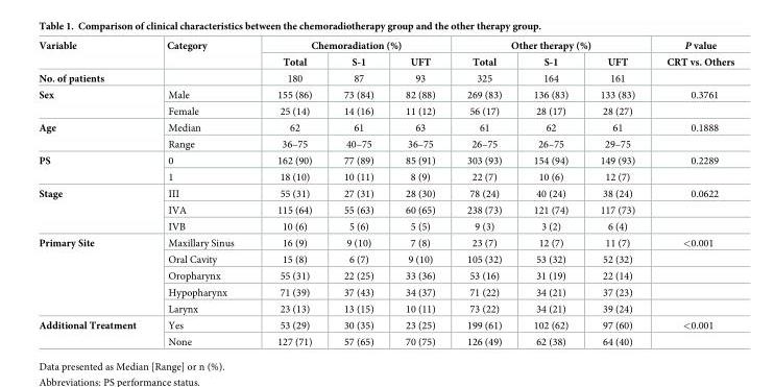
<table><thead><tr><td rowspan="2">Variable</td><td rowspan="2">Category</td><td colspan="3">Chemoradiation (%)</td><td colspan="3">Other therapy (%)</td><td rowspan="2">P value CRT vs. Others</td></tr><tr><td>Total</td><td>S-1</td><td>UFT</td><td>Total</td><td>S-1</td><td>UFT</td></tr></thead><tbody><tr><td>No. of patients</td><td></td><td>180</td><td>87</td><td>93</td><td>325</td><td>164</td><td>161</td><td></td></tr><tr><td rowspan="2">Sex</td><td>Male</td><td>155 (86)</td><td>73 (84)</td><td>82 (88)</td><td>269 (83)</td><td>136 (83)</td><td>133 (83)</td><td>0.3761</td></tr><tr><td>Female</td><td>25 (14)</td><td>14 (16)</td><td>11 (12)</td><td>56 (17)</td><td>28 (17)</td><td>28 (27)</td><td></td></tr><tr><td rowspan="2">Age</td><td>Median</td><td>62</td><td>61</td><td>63</td><td>61</td><td>62</td><td>61</td><td>0.1888</td></tr><tr><td>Range</td><td>36–75</td><td>40–75</td><td>36–75</td><td>26–75</td><td>26–75</td><td>29–75</td><td></td></tr><tr><td rowspan="2">PS</td><td>0</td><td>162 (90)</td><td>77 (89)</td><td>85 (91)</td><td>303 (93)</td><td>154 (94)</td><td>149 (93)</td><td>0.2289</td></tr><tr><td>1</td><td>18 (10)</td><td>10 (11)</td><td>8 (9)</td><td>22 (7)</td><td>10 (6)</td><td>12 (7)</td><td></td></tr><tr><td rowspan="3">Stage</td><td>III</td><td>55 (31)</td><td>27 (31)</td><td>28 (30)</td><td>78 (24)</td><td>40 (24)</td><td>38 (24)</td><td>0.0622</td></tr><tr><td>IVA</td><td>115 (64)</td><td>55 (63)</td><td>60 (65)</td><td>238 (73)</td><td>121 (74)</td><td>117 (73)</td><td></td></tr><tr><td>IVB</td><td>10 (6)</td><td>5 (6)</td><td>5 (5)</td><td>9 (3)</td><td>3 (2)</td><td>6 (4)</td><td></td></tr><tr><td rowspan="5">Primary Site</td><td>Maxillary Sinus</td><td>16 (9)</td><td>9 (10)</td><td>7 (8)</td><td>23 (7)</td><td>12 (7)</td><td>11 (7)</td><td>&lt;0.001</td></tr><tr><td>Oral Cavity</td><td>15 (8)</td><td>6 (7)</td><td>9 (10)</td><td>105 (32)</td><td>53 (32)</td><td>52 (32)</td><td></td></tr><tr><td>Oropharynx</td><td>55 (31)</td><td>22 (25)</td><td>33 (36)</td><td>53 (16)</td><td>31 (19)</td><td>22 (14)</td><td></td></tr><tr><td>Hypopharynx</td><td>71 (39)</td><td>37 (43)</td><td>34 (37)</td><td>71 (22)</td><td>34 (21)</td><td>37 (23)</td><td></td></tr><tr><td>Larynx</td><td>23 (13)</td><td>13 (15)</td><td>10 (11)</td><td>73 (22)</td><td>34 (21)</td><td>39 (24)</td><td></td></tr><tr><td rowspan="2">Additional Treatment</td><td>Yes</td><td>53 (29)</td><td>30 (35)</td><td>23 (25)</td><td>199 (61)</td><td>102 (62)</td><td>97 (60)</td><td>&lt;0.001</td></tr><tr><td>None</td><td>127 (71)</td><td>57 (65)</td><td>70 (75)</td><td>126 (49)</td><td>62 (38)</td><td>64 (40)</td><td></td></tr></tbody></table>